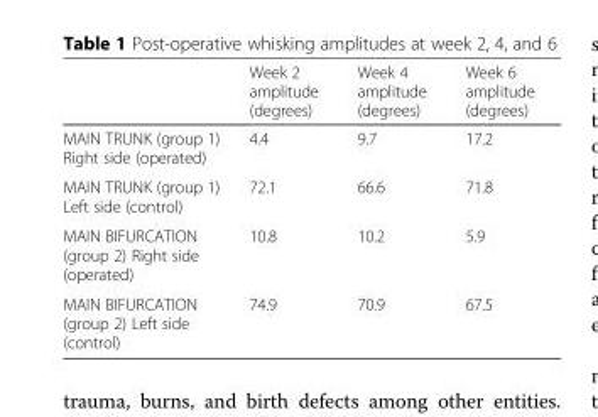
<table><thead><tr><td></td><td>Week 2 amplitude (degrees)</td><td>Week 4 amplitude (degrees)</td><td>Week 6 amplitude (degrees)</td></tr></thead><tbody><tr><td>MAIN TRUNK (group 1) Right side (operated)</td><td>4.4</td><td>9.7</td><td>17.2</td></tr><tr><td>MAIN TRUNK (group 1) Left side (control)</td><td>72.1</td><td>66.6</td><td>71.8</td></tr><tr><td>MAIN BIFURCATION (group 2) Right side (operated)</td><td>10.8</td><td>10.2</td><td>5.9</td></tr><tr><td>MAIN BIFURCATION (group 2) Left side (control)</td><td>74.9</td><td>70.9</td><td>67.5</td></tr></tbody></table>